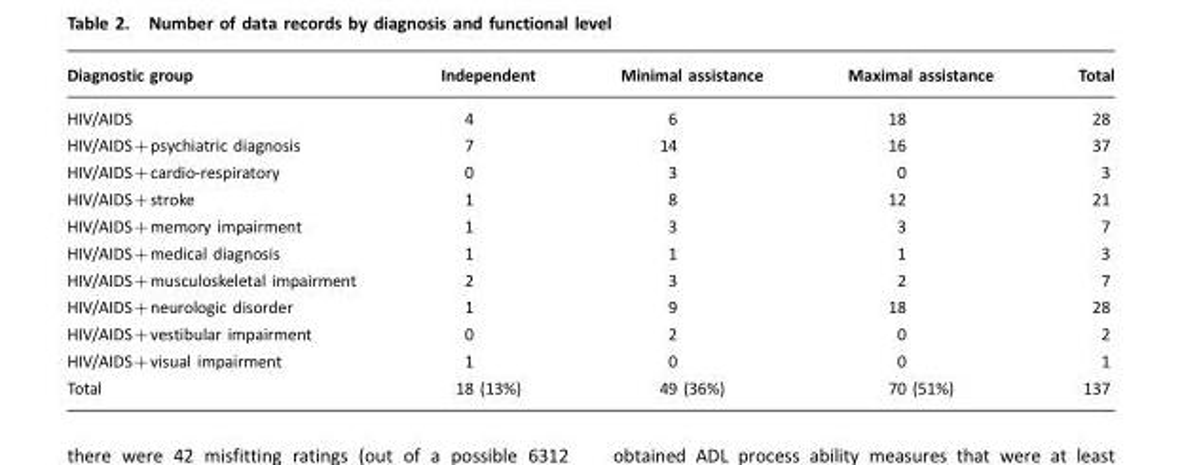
<table><thead><tr><td>Diagnostic group</td><td>Independent</td><td>Minimal assistance</td><td>Maximal assistance</td><td>Total</td></tr></thead><tbody><tr><td>HIV/AIDS</td><td>4</td><td>6</td><td>18</td><td>28</td></tr><tr><td>HIV/AIDS+psychiatric diagnosis</td><td>7</td><td>14</td><td>16</td><td>37</td></tr><tr><td>HIV/AIDS+cardio-respiratory</td><td>0</td><td>3</td><td>0</td><td>3</td></tr><tr><td>HIV/AIDS+stroke</td><td>1</td><td>8</td><td>12</td><td>21</td></tr><tr><td>HIV/AIDS+memory impairment</td><td>1</td><td>3</td><td>3</td><td>7</td></tr><tr><td>HIV/AIDS+medical diagnosis</td><td>1</td><td>1</td><td>1</td><td>3</td></tr><tr><td>HIV/AIDS+musculoskeletal impairment</td><td>2</td><td>3</td><td>2</td><td>7</td></tr><tr><td>HIV/AIDS+neurologic disorder</td><td>1</td><td>9</td><td>18</td><td>28</td></tr><tr><td>HIV/AIDS+vestibular impairment</td><td>0</td><td>2</td><td>0</td><td>2</td></tr><tr><td>HIV/AIDS+visual impairment</td><td>1</td><td>0</td><td>0</td><td>1</td></tr><tr><td>Total</td><td>18 (13%)</td><td>49 (36%)</td><td>70 (51%)</td><td>137</td></tr></tbody></table>